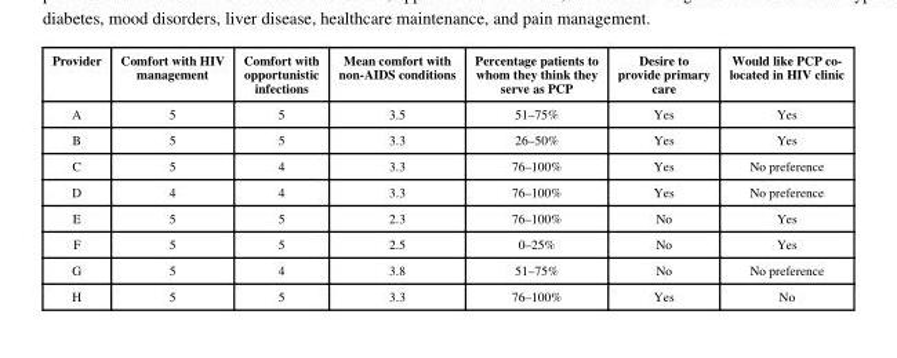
<table><thead><tr><td>Provider</td><td>Comfort with HIV management</td><td>Comfort with opportunistic infections</td><td>Mean comfort with non-AIDS conditions</td><td>Percentage patients to whom they think they serve as PCP</td><td>Desire to provide primary care</td><td>Would like PCP co- located in HIV clinic</td></tr></thead><tbody><tr><td>A</td><td>5</td><td>5</td><td>3.5</td><td>51–75%</td><td>Yes</td><td>Yes</td></tr><tr><td>B</td><td>5</td><td>5</td><td>3.3</td><td>26–50%</td><td>Yes</td><td>Yes</td></tr><tr><td>C</td><td>5</td><td>4</td><td>3.3</td><td>76–100%</td><td>Yes</td><td>No preference</td></tr><tr><td>D</td><td>4</td><td>4</td><td>3.3</td><td>76–100%</td><td>Yes</td><td>No preference</td></tr><tr><td>E</td><td>5</td><td>5</td><td>2.3</td><td>76–100%</td><td>No</td><td>Yes</td></tr><tr><td>F</td><td>5</td><td>5</td><td>2.5</td><td>0–25%</td><td>No</td><td>Yes</td></tr><tr><td>G</td><td>5</td><td>4</td><td>3.8</td><td>51–75%</td><td>No</td><td>No preference</td></tr><tr><td>H</td><td>5</td><td>5</td><td>3.3</td><td>76–100%</td><td>Yes</td><td>No</td></tr></tbody></table>